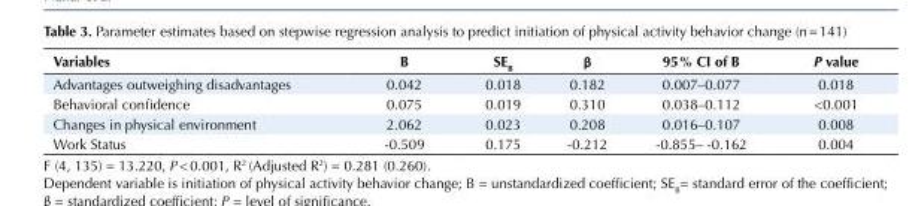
<table><tbody><tr><td>Variables</td><td>B</td><td>SE<sub>B</sub></td><td>β</td><td>95% CI of B</td><td>P value</td></tr><tr><td>Advantages outweighing disadvantages</td><td>0.042</td><td>0.018</td><td>0.182</td><td>0.007–0.077</td><td>0.018</td></tr><tr><td>Behavioral confidence</td><td>0.075</td><td>0.019</td><td>0.310</td><td>0.038–0.112</td><td>&lt;0.001</td></tr><tr><td>Changes in physical environment</td><td>2.062</td><td>0.023</td><td>0.208</td><td>0.016–0.107</td><td>0.008</td></tr><tr><td>Work Status</td><td>-0.509</td><td>0.175</td><td>-0.212</td><td>-0.855– -0.162</td><td>0.004</td></tr></tbody></table>